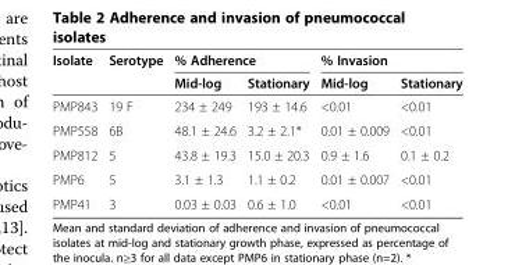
<table><thead><tr><td rowspan="2">Isolate</td><td rowspan="2">Serotype</td><td colspan="2">% Adherence</td><td colspan="2">% Invasion</td></tr><tr><td>Mid-log</td><td>Stationary</td><td>Mid-log</td><td>Stationary</td></tr></thead><tbody><tr><td>PMP843</td><td>19 F</td><td>234 ± 249</td><td>193 ± 14.6</td><td>&lt;0.01</td><td>&lt;0.01</td></tr><tr><td>PMP558</td><td>6B</td><td>48.1 ± 24.6</td><td>3.2 ± 2.1*</td><td>0.01 ± 0.009</td><td>&lt;0.01</td></tr><tr><td>PMP812</td><td>5</td><td>43.8 ± 19.3</td><td>15.0 ± 20.3</td><td>0.9 ± 1.6</td><td>0.1 ± 0.2</td></tr><tr><td>PMP6</td><td>5</td><td>3.1 ± 1.3</td><td>1.1 ± 0.2</td><td>0.01 ± 0.007</td><td>&lt;0.01</td></tr><tr><td>PMP41</td><td>3</td><td>0.03 ± 0.03</td><td>0.6 ± 1.0</td><td>&lt;0.01</td><td>&lt;0.01</td></tr></tbody></table>